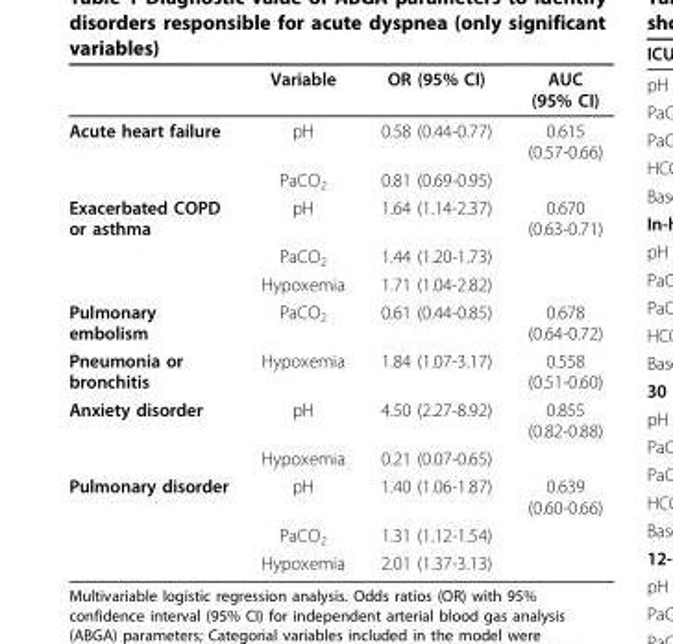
<table><thead><tr><td></td><td>Variable</td><td>OR (95% CI)</td><td>AUC (95% CI)</td></tr></thead><tbody><tr><td rowspan="2">Acute heart failure</td><td>pH</td><td>0.58 (0.44-0.77)</td><td>0.615 (0.57-0.66)</td></tr><tr><td>PaCO<sub>2</sub></td><td>0.81 (0.69-0.95)</td><td></td></tr><tr><td rowspan="3">Exacerbated COPD or asthma</td><td>pH</td><td>1.64 (1.14-2.37)</td><td>0.670 (0.63-0.71)</td></tr><tr><td>PaCO<sub>2</sub></td><td>1.44 (1.20-1.73)</td><td></td></tr><tr><td>Hypoxemia</td><td>1.71 (1.04-2.82)</td><td></td></tr><tr><td>Pulmonary embolism</td><td>PaCO<sub>2</sub></td><td>0.61 (0.44-0.85)</td><td>0.678 (0.64-0.72)</td></tr><tr><td>Pneumonia or bronchitis</td><td>Hypoxemia</td><td>1.84 (1.07-3.17)</td><td>0.558 (0.51-0.60)</td></tr><tr><td rowspan="2">Anxiety disorder</td><td>pH</td><td>4.50 (2.27-8.92)</td><td>0.855 (0.82-0.88)</td></tr><tr><td>Hypoxemia</td><td>0.21 (0.07-0.65)</td><td></td></tr><tr><td rowspan="3">Pulmonary disorder</td><td>pH</td><td>1.40 (1.06-1.87)</td><td>0.639 (0.60-0.66)</td></tr><tr><td>PaCO<sub>2</sub></td><td>1.31 (1.12-1.54)</td><td></td></tr><tr><td>Hypoxemia</td><td>2.01 (1.37-3.13)</td><td></td></tr></tbody></table>